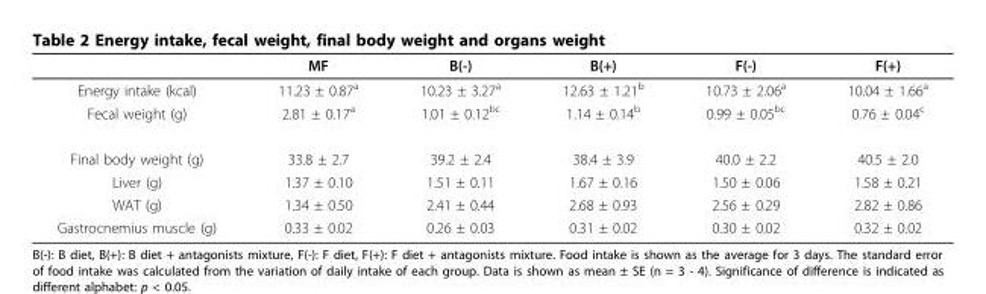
<table><thead><tr><td></td><td>MF</td><td>B(-)</td><td>B(+)</td><td>F(-)</td><td>F(+)</td></tr></thead><tbody><tr><td>Energy intake (kcal)</td><td>11.23 ± 0.87<sup>a</sup></td><td>10.23 ± 3.27<sup>a</sup></td><td>12.63 ± 1.21<sup>b</sup></td><td>10.73 ± 2.06<sup>a</sup></td><td>10.04 ± 1.66<sup>a</sup></td></tr><tr><td>Fecal weight (g)</td><td>2.81 ± 0.17<sup>a</sup></td><td>1.01 ± 0.12<sup>bc</sup></td><td>1.14 ± 0.14<sup>b</sup></td><td>0.99 ± 0.05<sup>bc</sup></td><td>0.76 ± 0.04<sup>c</sup></td></tr><tr><td>Final body weight (g)</td><td>33.8 ± 2.7</td><td>39.2 ± 2.4</td><td>38.4 ± 3.9</td><td>40.0 ± 2.2</td><td>40.5 ± 2.0</td></tr><tr><td>Liver (g)</td><td>1.37 ± 0.10</td><td>1.51 ± 0.11</td><td>1.67 ± 0.16</td><td>1.50 ± 0.06</td><td>1.58 ± 0.21</td></tr><tr><td>WAT (g)</td><td>1.34 ± 0.50</td><td>2.41 ± 0.44</td><td>2.68 ± 0.93</td><td>2.56 ± 0.29</td><td>2.82 ± 0.86</td></tr><tr><td>Gastrocnemius muscle (g)</td><td>0.33 ± 0.02</td><td>0.26 ± 0.03</td><td>0.31 ± 0.02</td><td>0.30 ± 0.02</td><td>0.32 ± 0.02</td></tr></tbody></table>